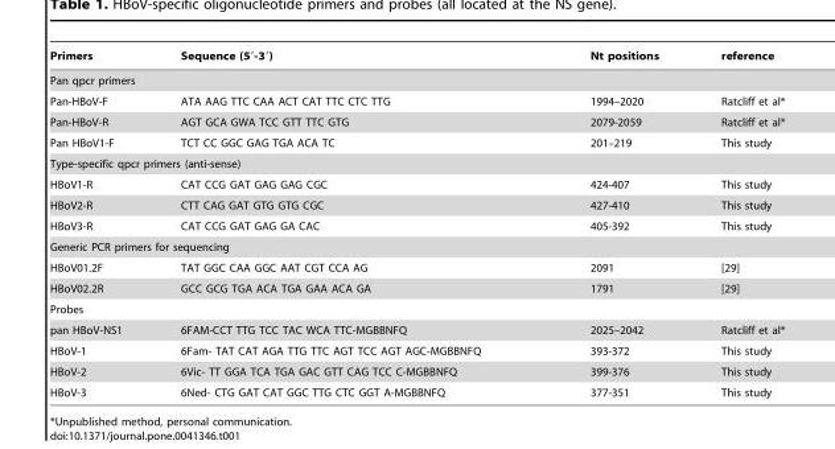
<table><thead><tr><td>Primers</td><td>Sequence (5′-3′)</td><td>Nt positions</td><td>reference</td></tr></thead><tbody><tr><td colspan="4">Pan qpcr primers</td></tr><tr><td>Pan-HBoV-F</td><td>ATA AAG TTC CAA ACT CAT TTC CTC TTG</td><td>1994–2020</td><td>Ratcliff et al*</td></tr><tr><td>Pan-HBoV-R</td><td>AGT GCA GWA TCC GTT TTC GTG</td><td>2079-2059</td><td>Ratcliff et al*</td></tr><tr><td>Pan HBoV1-F</td><td>TCT CC GGC GAG TGA ACA TC</td><td>201–219</td><td>This study</td></tr><tr><td colspan="4">Type-specific qpcr primers (anti-sense)</td></tr><tr><td>HBoV1-R</td><td>CAT CCG GAT GAG GAG CGC</td><td>424-407</td><td>This study</td></tr><tr><td>HBoV2-R</td><td>CTT CAG GAT GTG GTG CGC</td><td>427-410</td><td>This study</td></tr><tr><td>HBoV3-R</td><td>CAT CCG GAT GAG GA CAC</td><td>405-392</td><td>This study</td></tr><tr><td colspan="4">Generic PCR primers for sequencing</td></tr><tr><td>HBoV01.2F</td><td>TAT GGC CAA GGC AAT CGT CCA AG</td><td>2091</td><td>[29]</td></tr><tr><td>HBoV02.2R</td><td>GCC GCG TGA ACA TGA GAA ACA GA</td><td>1791</td><td>[29]</td></tr><tr><td colspan="4">Probes</td></tr><tr><td>pan HBoV-NS1</td><td>6FAM-CCT TTG TCC TAC WCA TTC-MGBBNFQ</td><td>2025–2042</td><td>Ratcliff et al*</td></tr><tr><td>HBoV-1</td><td>6Fam- TAT CAT AGA TTG TTC AGT TCC AGT AGC-MGBBNFQ</td><td>393-372</td><td>This study</td></tr><tr><td>HBoV-2</td><td>6Vic- TT GGA TCA TGA GAC GTT CAG TCC C-MGBBNFQ</td><td>399-376</td><td>This study</td></tr><tr><td>HBoV-3</td><td>6Ned- CTG GAT CAT GGC TTG CTC GGT A-MGBBNFQ</td><td>377-351</td><td>This study</td></tr></tbody></table>